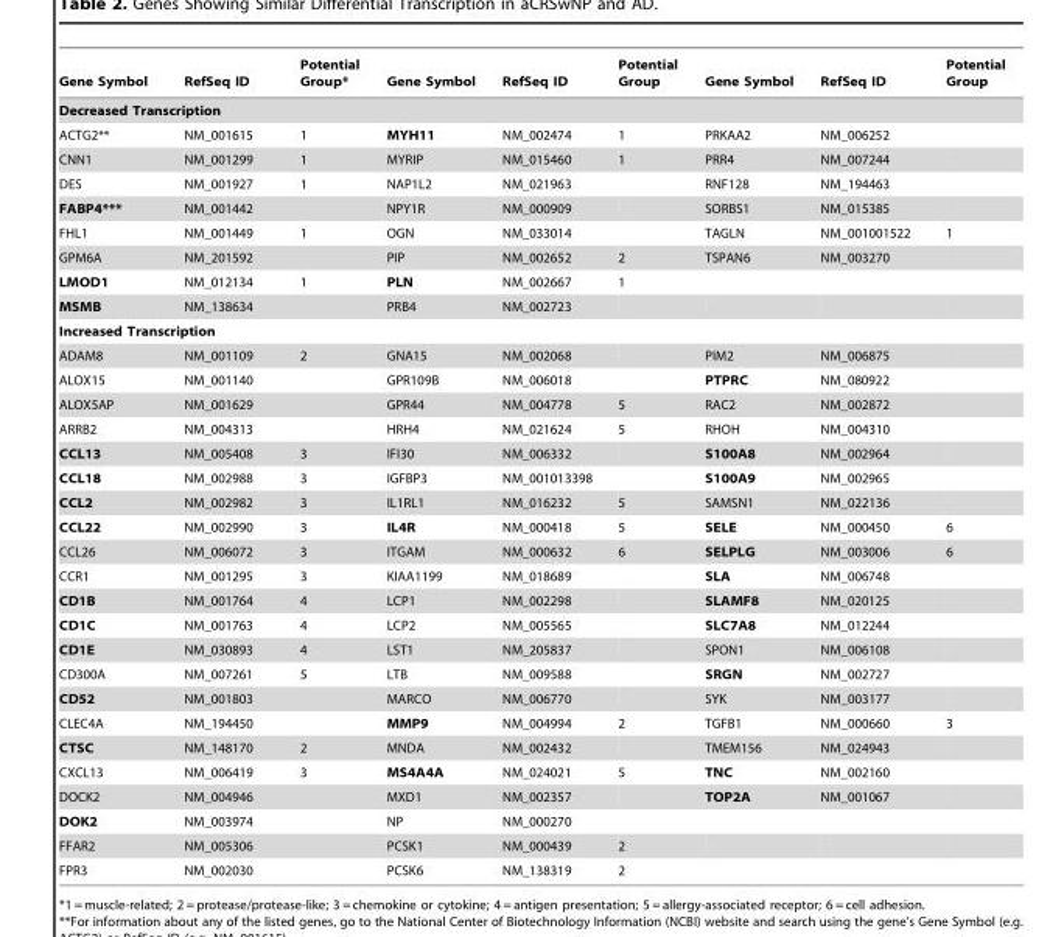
<table><thead><tr><td>Gene Symbol</td><td>RefSeq ID</td><td>Potential Group*</td><td>Gene Symbol</td><td>RefSeq ID</td><td>Potential Group</td><td>Gene Symbol</td><td>RefSeq ID</td><td>Potential Group</td></tr></thead><tbody><tr><td colspan="9">Decreased Transcription</td></tr><tr><td>ACTG2**</td><td>NM_001615</td><td>1</td><td>MYH11</td><td>NM_002474</td><td>1</td><td>PRKAA2</td><td>NM_006252</td><td></td></tr><tr><td>CNN1</td><td>NM_001299</td><td>1</td><td>MYRIP</td><td>NM_015460</td><td>1</td><td>PRR4</td><td>NM_007244</td><td></td></tr><tr><td>DES</td><td>NM_001927</td><td>1</td><td>NAP1L2</td><td>NM_021963</td><td></td><td>RNF128</td><td>NM_194463</td><td></td></tr><tr><td>FABP4***</td><td>NM_001442</td><td></td><td>NPY1R</td><td>NM_000909</td><td></td><td>SORBS1</td><td>NM_015385</td><td></td></tr><tr><td>FHL1</td><td>NM_001449</td><td>1</td><td>OGN</td><td>NM_033014</td><td></td><td>TAGLN</td><td>NM_001001522</td><td>1</td></tr><tr><td>GPM6A</td><td>NM_201592</td><td></td><td>PIP</td><td>NM_002652</td><td>2</td><td>TSPAN6</td><td>NM_003270</td><td></td></tr><tr><td>LMOD1</td><td>NM_012134</td><td>1</td><td>PLN</td><td>NM_002667</td><td>1</td><td></td><td></td><td></td></tr><tr><td>MSMB</td><td>NM_138634</td><td></td><td>PRB4</td><td>NM_002723</td><td></td><td></td><td></td><td></td></tr><tr><td colspan="9">Increased Transcription</td></tr><tr><td>ADAM8</td><td>NM_001109</td><td>2</td><td>GNA15</td><td>NM_002068</td><td></td><td>PIM2</td><td>NM_006875</td><td></td></tr><tr><td>ALOX15</td><td>NM_001140</td><td></td><td>GPR109B</td><td>NM_006018</td><td></td><td>PTPRC</td><td>NM_080922</td><td></td></tr><tr><td>ALOX5AP</td><td>NM_001629</td><td></td><td>GPR44</td><td>NM_004778</td><td>5</td><td>RAC2</td><td>NM_002872</td><td></td></tr><tr><td>ARRB2</td><td>NM_004313</td><td></td><td>HRH4</td><td>NM_021624</td><td>5</td><td>RHOH</td><td>NM_004310</td><td></td></tr><tr><td>CCL13</td><td>NM_005408</td><td>3</td><td>IFI30</td><td>NM_006332</td><td></td><td>S100A8</td><td>NM_002964</td><td></td></tr><tr><td>CCL18</td><td>NM_002988</td><td>3</td><td>IGFBP3</td><td>NM_001013398</td><td></td><td>S100A9</td><td>NM_002965</td><td></td></tr><tr><td>CCL2</td><td>NM_002982</td><td>3</td><td>IL1RL1</td><td>NM_016232</td><td>5</td><td>SAMSN1</td><td>NM_022136</td><td></td></tr><tr><td>CCL22</td><td>NM_002990</td><td>3</td><td>IL4R</td><td>NM_000418</td><td>5</td><td>SELE</td><td>NM_000450</td><td>6</td></tr><tr><td>CCL26</td><td>NM_006072</td><td>3</td><td>ITGAM</td><td>NM_000632</td><td>6</td><td>SELPLG</td><td>NM_003006</td><td>6</td></tr><tr><td>CCR1</td><td>NM_001295</td><td>3</td><td>KIAA1199</td><td>NM_018689</td><td></td><td>SLA</td><td>NM_006748</td><td></td></tr><tr><td>CD1B</td><td>NM_001764</td><td>4</td><td>LCP1</td><td>NM_002298</td><td></td><td>SLAMF8</td><td>NM_020125</td><td></td></tr><tr><td>CD1C</td><td>NM_001763</td><td>4</td><td>LCP2</td><td>NM_005565</td><td></td><td>SLC7A8</td><td>NM_012244</td><td></td></tr><tr><td>CD1E</td><td>NM_030893</td><td>4</td><td>LST1</td><td>NM_205837</td><td></td><td>SPON1</td><td>NM_006108</td><td></td></tr><tr><td>CD300A</td><td>NM_007261</td><td>5</td><td>LTB</td><td>NM_009588</td><td></td><td>SRGN</td><td>NM_002727</td><td></td></tr><tr><td>CD52</td><td>NM_001803</td><td></td><td>MARCO</td><td>NM_006770</td><td></td><td>SYK</td><td>NM_003177</td><td></td></tr><tr><td>CLEC4A</td><td>NM_194450</td><td></td><td>MMP9</td><td>NM_004994</td><td>2</td><td>TGFB1</td><td>NM_000660</td><td>3</td></tr><tr><td>CTSC</td><td>NM_148170</td><td>2</td><td>MNDA</td><td>NM_002432</td><td></td><td>TMEM156</td><td>NM_024943</td><td></td></tr><tr><td>CXCL13</td><td>NM_006419</td><td>3</td><td>MS4A4A</td><td>NM_024021</td><td>5</td><td>TNC</td><td>NM_002160</td><td></td></tr><tr><td>DOCK2</td><td>NM_004946</td><td></td><td>MXD1</td><td>NM_002357</td><td></td><td>TOP2A</td><td>NM_001067</td><td></td></tr><tr><td>DOK2</td><td>NM_003974</td><td></td><td>NP</td><td>NM_000270</td><td></td><td></td><td></td><td></td></tr><tr><td>FFAR2</td><td>NM_005306</td><td></td><td>PCSK1</td><td>NM_000439</td><td>2</td><td></td><td></td><td></td></tr><tr><td>FPR3</td><td>NM_002030</td><td></td><td>PCSK6</td><td>NM_138319</td><td>2</td><td></td><td></td><td></td></tr></tbody></table>